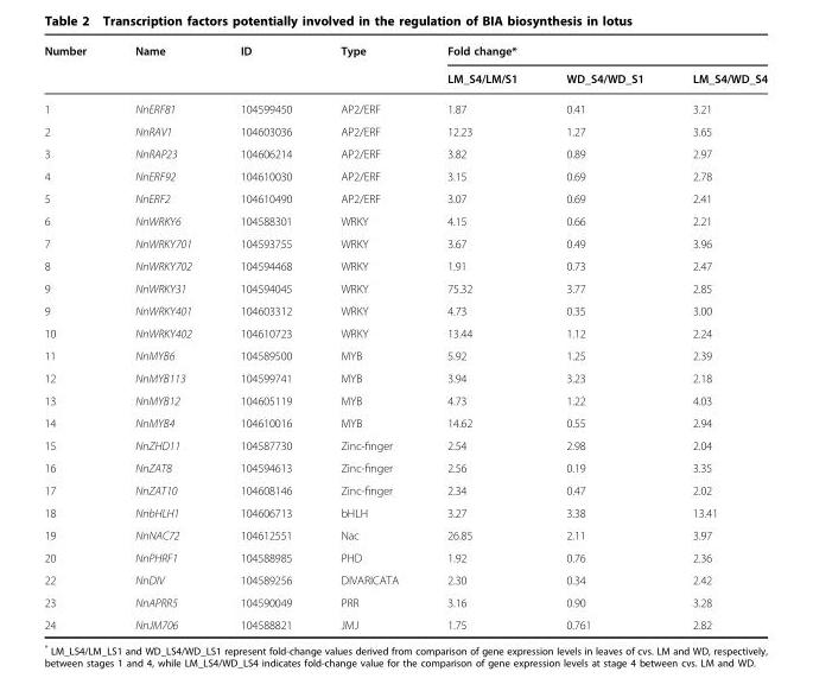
<table><thead><tr><td rowspan="2">Number</td><td rowspan="2">Name</td><td rowspan="2">ID</td><td rowspan="2">Type</td><td colspan="3">Fold change*</td></tr><tr><td>LM_S4/LM/S1</td><td>WD_S4/WD_S1</td><td>LM_S4/WD_S4</td></tr></thead><tbody><tr><td>1</td><td>NnERF81</td><td>104599450</td><td>AP2/ERF</td><td>1.87</td><td>0.41</td><td>3.21</td></tr><tr><td>2</td><td>NnRAV1</td><td>104603036</td><td>AP2/ERF</td><td>12.23</td><td>1.27</td><td>3.65</td></tr><tr><td>3</td><td>NnRAP23</td><td>104606214</td><td>AP2/ERF</td><td>3.82</td><td>0.89</td><td>2.97</td></tr><tr><td>4</td><td>NnERF92</td><td>104610030</td><td>AP2/ERF</td><td>3.15</td><td>0.69</td><td>2.78</td></tr><tr><td>5</td><td>NnERF2</td><td>104610490</td><td>AP2/ERF</td><td>3.07</td><td>0.69</td><td>2.41</td></tr><tr><td>6</td><td>NnWRKY6</td><td>104588301</td><td>WRKY</td><td>4.15</td><td>0.66</td><td>2.21</td></tr><tr><td>7</td><td>NnWRKY701</td><td>104593755</td><td>WRKY</td><td>3.67</td><td>0.49</td><td>3.96</td></tr><tr><td>8</td><td>NnWRKY702</td><td>104594468</td><td>WRKY</td><td>1.91</td><td>0.73</td><td>2.47</td></tr><tr><td>9</td><td>NnWRKY31</td><td>104594045</td><td>WRKY</td><td>75.32</td><td>3.77</td><td>2.85</td></tr><tr><td>9</td><td>NnWRKY401</td><td>104603312</td><td>WRKY</td><td>4.73</td><td>0.35</td><td>3.00</td></tr><tr><td>10</td><td>NnWRKY402</td><td>104610723</td><td>WRKY</td><td>13.44</td><td>1.12</td><td>2.24</td></tr><tr><td>11</td><td>NnMYB6</td><td>104589500</td><td>MYB</td><td>5.92</td><td>1.25</td><td>2.39</td></tr><tr><td>12</td><td>NnMYB113</td><td>104599741</td><td>MYB</td><td>3.94</td><td>3.23</td><td>2.18</td></tr><tr><td>13</td><td>NnMYB12</td><td>104605119</td><td>MYB</td><td>4.73</td><td>1.22</td><td>4.03</td></tr><tr><td>14</td><td>NnMYB4</td><td>104610016</td><td>MYB</td><td>14.62</td><td>0.55</td><td>2.94</td></tr><tr><td>15</td><td>NnZHD11</td><td>104587730</td><td>Zinc-finger</td><td>2.54</td><td>2.98</td><td>2.04</td></tr><tr><td>16</td><td>NnZAT8</td><td>104594613</td><td>Zinc-finger</td><td>2.56</td><td>0.19</td><td>3.35</td></tr><tr><td>17</td><td>NnZAT10</td><td>104608146</td><td>Zinc-finger</td><td>2.34</td><td>0.47</td><td>2.02</td></tr><tr><td>18</td><td>NnbHLH1</td><td>104606713</td><td>bHLH</td><td>3.27</td><td>3.38</td><td>13.41</td></tr><tr><td>19</td><td>NnNAC72</td><td>104612551</td><td>Nac</td><td>26.85</td><td>2.11</td><td>3.97</td></tr><tr><td>20</td><td>NnPHRF1</td><td>104588985</td><td>PHD</td><td>1.92</td><td>0.76</td><td>2.36</td></tr><tr><td>22</td><td>NnDIV</td><td>104589256</td><td>DIVARICATA</td><td>2.30</td><td>0.34</td><td>2.42</td></tr><tr><td>23</td><td>NnAPRR5</td><td>104590049</td><td>PRR</td><td>3.16</td><td>0.90</td><td>3.28</td></tr><tr><td>24</td><td>NnJM706</td><td>104588821</td><td>JMJ</td><td>1.75</td><td>0.761</td><td>2.82</td></tr></tbody></table>